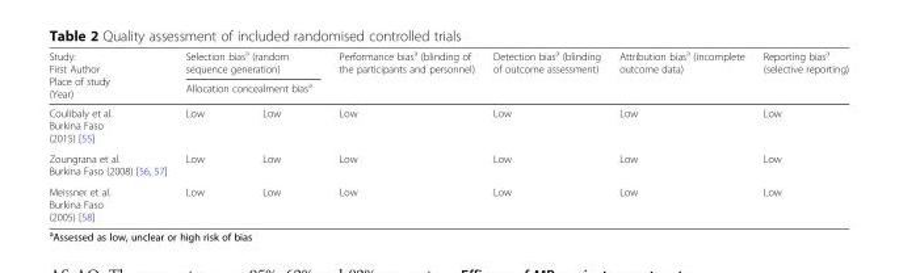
<table><thead><tr><td rowspan="3">Study: First Author Place of study (Year) Coulibaly et al. Burkina Faso (2015) [55]</td><td rowspan="2" colspan="2">Selection bias<sup>a</sup> (random sequence generation) Allocation concealment bias<sup>a</sup></td><td rowspan="3">Performance bias<sup>a</sup> (blinding of the participants and personnel) Low</td><td rowspan="3">Detection bias<sup>a</sup> (blinding of outcome assessment) Low</td><td rowspan="3">Attribution bias<sup>a</sup> (incomplete outcome data) Low</td><td rowspan="3">Reporting bias<sup>a</sup> (selective reporting) Low</td></tr><tr></tr><tr><td>Low</td><td>Low</td></tr></thead><tbody><tr><td>Zoungrana et al. Burkina Faso (2008) [56, 57]</td><td>Low</td><td>Low</td><td>Low</td><td>Low</td><td>Low</td><td>Low</td></tr><tr><td>Meissner et al. Burkina Faso (2005) [58]</td><td>Low</td><td>Low</td><td>Low</td><td>Low</td><td>Low</td><td>Low</td></tr></tbody></table>